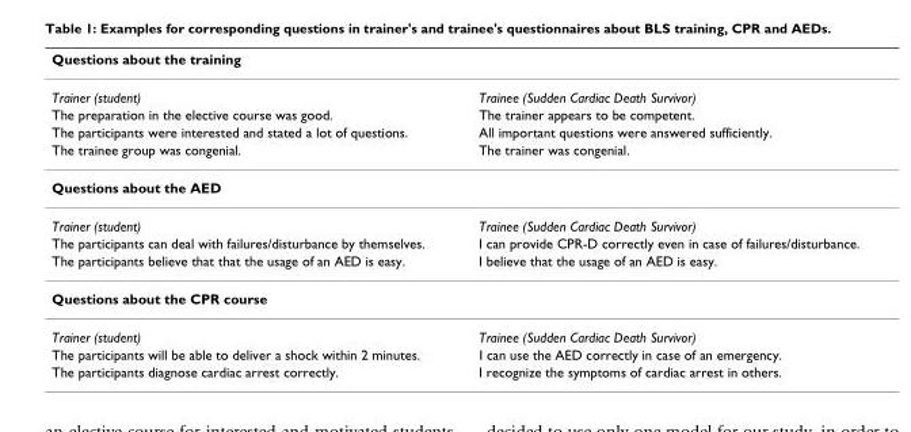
<table><thead><tr><td>Questions about the training</td><td></td></tr></thead><tbody><tr><td>Trainer (student)</td><td>Trainee (Sudden Cardiac Death Survivor)</td></tr><tr><td>The preparation in the elective course was good.</td><td>The trainer appears to be competent.</td></tr><tr><td>The participants were interested and stated a lot of questions.</td><td>All important questions were answered sufficiently.</td></tr><tr><td>The trainee group was congenial.</td><td>The trainer was congenial.</td></tr><tr><td colspan="2">Questions about the AED</td></tr><tr><td>Trainer (student)</td><td>Trainee (Sudden Cardiac Death Survivor)</td></tr><tr><td>The participants can deal with failures/disturbance by themselves.</td><td>I can provide CPR-D correctly even in case of failures/disturbance.</td></tr><tr><td>The participants believe that that the usage of an AED is easy.</td><td>I believe that the usage of an AED is easy.</td></tr><tr><td colspan="2">Questions about the CPR course</td></tr><tr><td>Trainer (student)</td><td>Trainee (Sudden Cardiac Death Survivor)</td></tr><tr><td>The participants will be able to deliver a shock within 2 minutes.</td><td>I can use the AED correctly in case of an emergency.</td></tr><tr><td>The participants diagnose cardiac arrest correctly.</td><td>I recognize the symptoms of cardiac arrest in others.</td></tr></tbody></table>